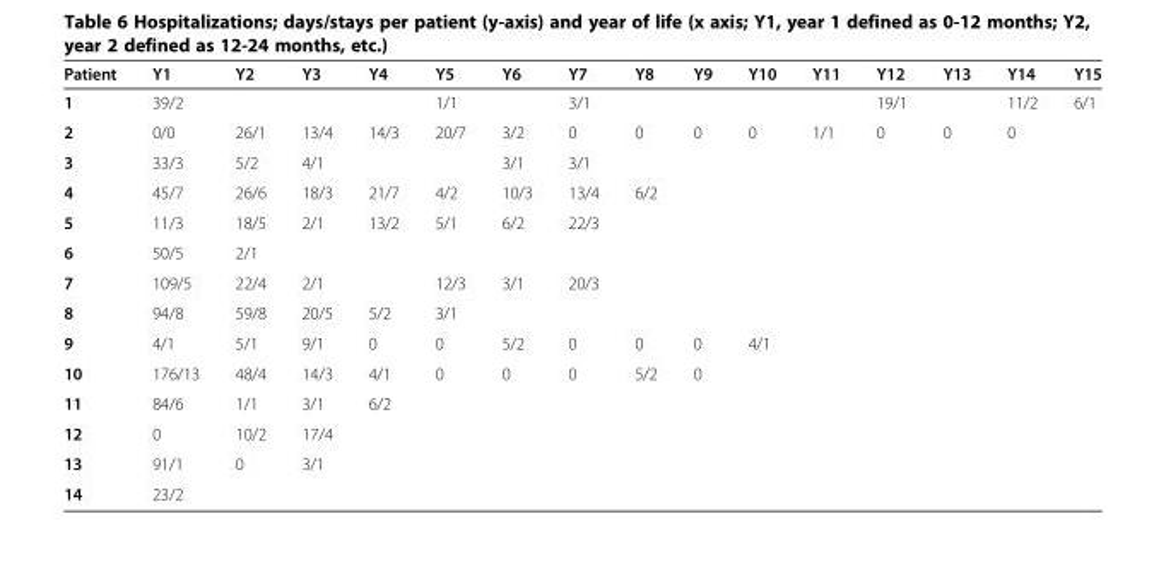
<table><thead><tr><td>Patient</td><td>Y1</td><td>Y2</td><td>Y3</td><td>Y4</td><td>Y5</td><td>Y6</td><td>Y7</td><td>Y8</td><td>Y9</td><td>Y10</td><td>Y11</td><td>Y12</td><td>Y13</td><td>Y14</td><td>Y15</td></tr></thead><tbody><tr><td>1</td><td>39/2</td><td></td><td></td><td></td><td>1/1</td><td></td><td>3/1</td><td></td><td></td><td></td><td></td><td>19/1</td><td></td><td>11/2</td><td>6/1</td></tr><tr><td>2</td><td>0/0</td><td>26/1</td><td>13/4</td><td>14/3</td><td>20/7</td><td>3/2</td><td>0</td><td>0</td><td>0</td><td>0</td><td>1/1</td><td>0</td><td>0</td><td>0</td><td></td></tr><tr><td>3</td><td>33/3</td><td>5/2</td><td>4/1</td><td></td><td></td><td>3/1</td><td>3/1</td><td colspan="8"></td></tr><tr><td>4</td><td>45/7</td><td>26/6</td><td>18/3</td><td>21/7</td><td>4/2</td><td>10/3</td><td>13/4</td><td>6/2</td><td colspan="7"></td></tr><tr><td>5</td><td>11/3</td><td>18/5</td><td>2/1</td><td>13/2</td><td>5/1</td><td>6/2</td><td>22/3</td><td colspan="8"></td></tr><tr><td>6</td><td>50/5</td><td>2/1</td><td colspan="13"></td></tr><tr><td>7</td><td>109/5</td><td>22/4</td><td>2/1</td><td></td><td>12/3</td><td>3/1</td><td>20/3</td><td colspan="8"></td></tr><tr><td>8</td><td>94/8</td><td>59/8</td><td>20/5</td><td>5/2</td><td>3/1</td><td colspan="10"></td></tr><tr><td>9</td><td>4/1</td><td>5/1</td><td>9/1</td><td>0</td><td>0</td><td>5/2</td><td>0</td><td>0</td><td>0</td><td>4/1</td><td colspan="5"></td></tr><tr><td>10</td><td>176/13</td><td>48/4</td><td>14/3</td><td>4/1</td><td>0</td><td>0</td><td>0</td><td>5/2</td><td>0</td><td colspan="6"></td></tr><tr><td>11</td><td>84/6</td><td>1/1</td><td>3/1</td><td>6/2</td><td colspan="11"></td></tr><tr><td>12</td><td>0</td><td>10/2</td><td>17/4</td><td colspan="12"></td></tr><tr><td>13</td><td>91/1</td><td>0</td><td>3/1</td><td colspan="12"></td></tr><tr><td>14</td><td>23/2</td><td colspan="14"></td></tr></tbody></table>